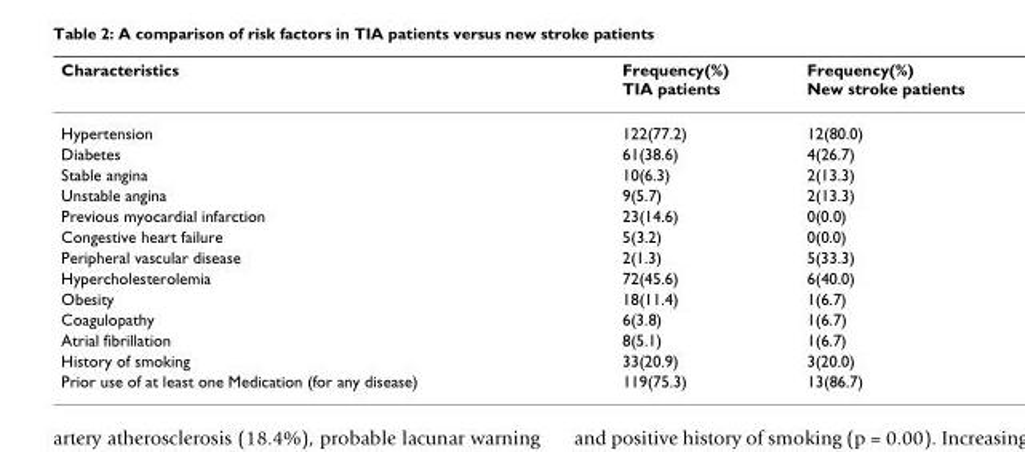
<table><thead><tr><td>Characteristics</td><td>Frequency(%) TIA patients</td><td>Frequency(%) New stroke patients</td></tr></thead><tbody><tr><td>Hypertension</td><td>122(77.2)</td><td>12(80.0)</td></tr><tr><td>Diabetes</td><td>61(38.6)</td><td>4(26.7)</td></tr><tr><td>Stable angina</td><td>10(6.3)</td><td>2(13.3)</td></tr><tr><td>Unstable angina</td><td>9(5.7)</td><td>2(13.3)</td></tr><tr><td>Previous myocardial infarction</td><td>23(14.6)</td><td>0(0.0)</td></tr><tr><td>Congestive heart failure</td><td>5(3.2)</td><td>0(0.0)</td></tr><tr><td>Peripheral vascular disease</td><td>2(1.3)</td><td>5(33.3)</td></tr><tr><td>Hypercholesterolemia</td><td>72(45.6)</td><td>6(40.0)</td></tr><tr><td>Obesity</td><td>18(11.4)</td><td>1(6.7)</td></tr><tr><td>Coagulopathy</td><td>6(3.8)</td><td>1(6.7)</td></tr><tr><td>Atrial fibrillation</td><td>8(5.1)</td><td>1(6.7)</td></tr><tr><td>History of smoking</td><td>33(20.9)</td><td>3(20.0)</td></tr><tr><td>Prior use of at least one Medication (for any disease)</td><td>119(75.3)</td><td>13(86.7)</td></tr></tbody></table>